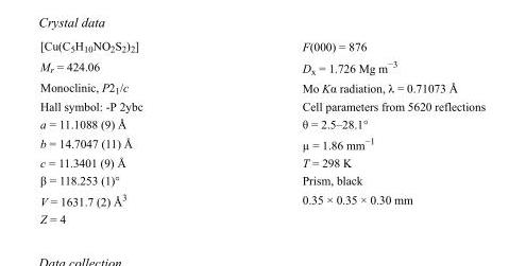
<table><tbody><tr><td>[Cu(C<sub>5</sub>H<sub>10</sub>NO<sub>2</sub>S<sub>2</sub>)<sub>2</sub>]</td><td>F(000) = 876</td></tr><tr><td>M<sub>r</sub> = 424.06</td><td>D<sub>x</sub> = 1.726 Mg m<sup>−3</sup></td></tr><tr><td>Monoclinic, P2<sub>1</sub>/c</td><td>Mo Kα radiation, λ = 0.71073 Å</td></tr><tr><td>Hall symbol: -P 2ybc</td><td>Cell parameters from 5620 reflections</td></tr><tr><td>a = 11.1088 (9) Å</td><td>θ = 2.5–28.1°</td></tr><tr><td>b = 14.7047 (11) Å</td><td>µ = 1.86 mm<sup>−1</sup></td></tr><tr><td>c = 11.3401 (9) Å</td><td>T = 298 K</td></tr><tr><td>β = 118.253 (1)°</td><td>Prism, black</td></tr><tr><td>V = 1631.7 (2) Å<sup>3</sup></td><td>0.35 × 0.35 × 0.30 mm</td></tr><tr><td>Z = 4</td><td></td></tr></tbody></table>